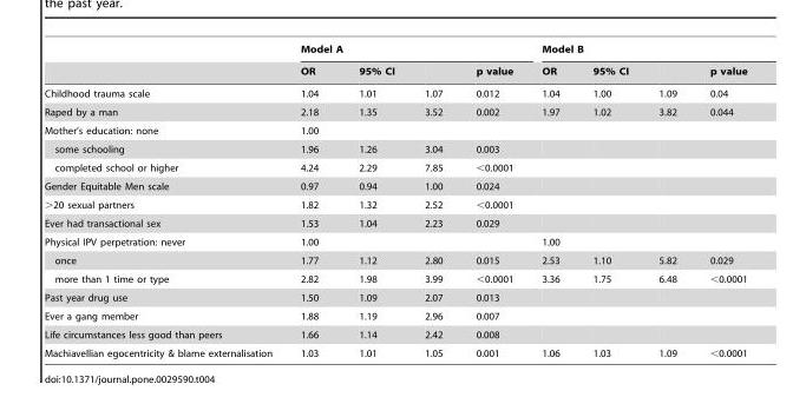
<table><thead><tr><td rowspan="2"></td><td colspan="4">Model A</td><td colspan="4">Model B</td></tr><tr><td>OR</td><td>95% CI</td><td></td><td>p value</td><td>OR</td><td>95% CI</td><td></td><td>p value</td></tr></thead><tbody><tr><td>Childhood trauma scale</td><td>1.04</td><td>1.01</td><td>1.07</td><td>0.012</td><td>1.04</td><td>1.00</td><td>1.09</td><td>0.04</td></tr><tr><td>Raped by a man</td><td>2.18</td><td>1.35</td><td>3.52</td><td>0.002</td><td>1.97</td><td>1.02</td><td>3.82</td><td>0.044</td></tr><tr><td>Mother’s education: none</td><td>1.00</td><td></td><td></td><td></td><td></td><td></td><td></td><td></td></tr><tr><td>some schooling</td><td>1.96</td><td>1.26</td><td>3.04</td><td>0.003</td><td></td><td></td><td></td><td></td></tr><tr><td>completed school or higher</td><td>4.24</td><td>2.29</td><td>7.85</td><td>&lt;0.0001</td><td></td><td></td><td></td><td></td></tr><tr><td>Gender Equitable Men scale</td><td>0.97</td><td>0.94</td><td>1.00</td><td>0.024</td><td></td><td></td><td></td><td></td></tr><tr><td>&gt;20 sexual partners</td><td>1.82</td><td>1.32</td><td>2.52</td><td>&lt;0.0001</td><td></td><td></td><td></td><td></td></tr><tr><td>Ever had transactional sex</td><td>1.53</td><td>1.04</td><td>2.23</td><td>0.029</td><td></td><td></td><td></td><td></td></tr><tr><td>Physical IPV perpetration: never</td><td>1.00</td><td></td><td></td><td></td><td>1.00</td><td></td><td></td><td></td></tr><tr><td>once</td><td>1.77</td><td>1.12</td><td>2.80</td><td>0.015</td><td>2.53</td><td>1.10</td><td>5.82</td><td>0.029</td></tr><tr><td>more than 1 time or type</td><td>2.82</td><td>1.98</td><td>3.99</td><td>&lt;0.0001</td><td>3.36</td><td>1.75</td><td>6.48</td><td>&lt;0.0001</td></tr><tr><td>Past year drug use</td><td>1.50</td><td>1.09</td><td>2.07</td><td>0.013</td><td></td><td></td><td></td><td></td></tr><tr><td>Ever a gang member</td><td>1.88</td><td>1.19</td><td>2.96</td><td>0.007</td><td></td><td></td><td></td><td></td></tr><tr><td>Life circumstances less good than peers</td><td>1.66</td><td>1.14</td><td>2.42</td><td>0.008</td><td></td><td></td><td></td><td></td></tr><tr><td>Machiavellian egocentricity &amp; blame externalisation</td><td>1.03</td><td>1.01</td><td>1.05</td><td>0.001</td><td>1.06</td><td>1.03</td><td>1.09</td><td>&lt;0.0001</td></tr></tbody></table>